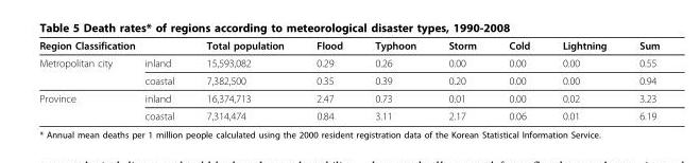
<table><thead><tr><td colspan="2">Region Classification</td><td rowspan="2">Total population 15,593,082</td><td rowspan="2">Flood 0.29</td><td rowspan="2">Typhoon 0.26</td><td rowspan="2">Storm 0.00</td><td rowspan="2">Cold 0.00</td><td rowspan="2">Lightning 0.00</td><td rowspan="2">Sum 0.55</td></tr><tr><td>Metropolitan city</td><td>inland</td></tr></thead><tbody><tr><td></td><td>coastal</td><td>7,382,500</td><td>0.35</td><td>0.39</td><td>0.20</td><td>0.00</td><td>0.00</td><td>0.94</td></tr><tr><td rowspan="2">Province</td><td>inland</td><td>16,374,713</td><td>2.47</td><td>0.73</td><td>0.01</td><td>0.00</td><td>0.02</td><td>3.23</td></tr><tr><td>coastal</td><td>7,314,474</td><td>0.84</td><td>3.11</td><td>2.17</td><td>0.06</td><td>0.01</td><td>6.19</td></tr></tbody></table>